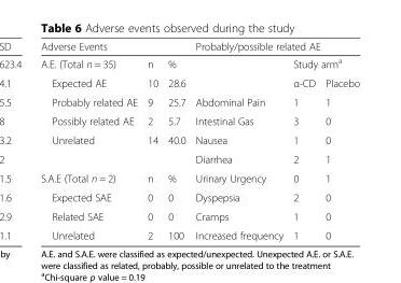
<table><thead><tr><td colspan="2">Adverse Events</td><td rowspan="3">% 28.6</td><td colspan="3">Probably/possible related AE</td></tr><tr><td rowspan="2">A.E. (Total n = 35) Expected AE</td><td rowspan="2">n 10</td><td rowspan="2"></td><td colspan="2">Study arm<sup>a</sup></td></tr><tr><td>α-CD</td><td>Placebo</td></tr></thead><tbody><tr><td>Probably related AE</td><td>9</td><td>25.7</td><td>Abdominal Pain</td><td>1</td><td>1</td></tr><tr><td>Possibly related AE</td><td>2</td><td>5.7</td><td>Intestinal Gas</td><td>3</td><td>0</td></tr><tr><td rowspan="2">Unrelated</td><td>14</td><td>40.0</td><td>Nausea</td><td>1</td><td>0</td></tr><tr><td></td><td></td><td>Diarrhea</td><td>2</td><td>1</td></tr><tr><td>S.A.E (Total n = 2)</td><td>n</td><td>%</td><td>Urinary Urgency</td><td>0</td><td>1</td></tr><tr><td>Expected SAE</td><td>0</td><td>0</td><td>Dyspepsia</td><td>2</td><td>0</td></tr><tr><td>Related SAE</td><td>0</td><td>0</td><td>Cramps</td><td>1</td><td>0</td></tr><tr><td>Unrelated</td><td>2</td><td>100</td><td>Increased frequency</td><td>1</td><td>0</td></tr></tbody></table>